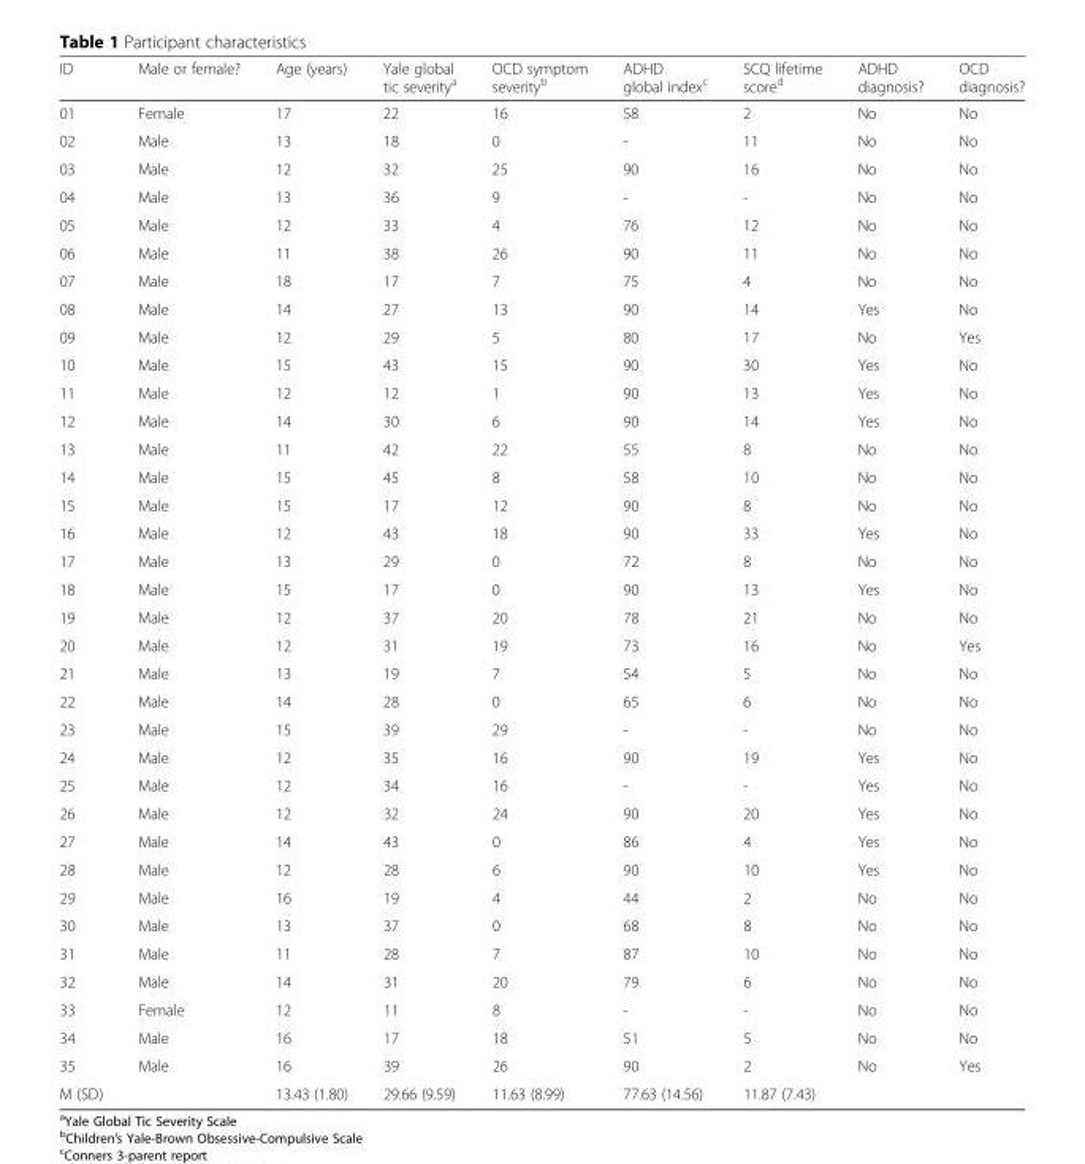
<table><thead><tr><td>ID</td><td>Male or female?</td><td>Age (years)</td><td>Yale global tic severity<sup>a</sup></td><td>OCD symptom severity<sup>b</sup></td><td>ADHD global index<sup>c</sup></td><td>SCQ lifetime score<sup>d</sup></td><td>ADHD diagnosis?</td><td>OCD diagnosis?</td></tr></thead><tbody><tr><td>01</td><td>Female</td><td>17</td><td>22</td><td>16</td><td>58</td><td>2</td><td>No</td><td>No</td></tr><tr><td>02</td><td>Male</td><td>13</td><td>18</td><td>0</td><td>-</td><td>11</td><td>No</td><td>No</td></tr><tr><td>03</td><td>Male</td><td>12</td><td>32</td><td>25</td><td>90</td><td>16</td><td>No</td><td>No</td></tr><tr><td>04</td><td>Male</td><td>13</td><td>36</td><td>9</td><td>-</td><td>-</td><td>No</td><td>No</td></tr><tr><td>05</td><td>Male</td><td>12</td><td>33</td><td>4</td><td>76</td><td>12</td><td>No</td><td>No</td></tr><tr><td>06</td><td>Male</td><td>11</td><td>38</td><td>26</td><td>90</td><td>11</td><td>No</td><td>No</td></tr><tr><td>07</td><td>Male</td><td>18</td><td>17</td><td>7</td><td>75</td><td>4</td><td>No</td><td>No</td></tr><tr><td>08</td><td>Male</td><td>14</td><td>27</td><td>13</td><td>90</td><td>14</td><td>Yes</td><td>No</td></tr><tr><td>09</td><td>Male</td><td>12</td><td>29</td><td>5</td><td>80</td><td>17</td><td>No</td><td>Yes</td></tr><tr><td>10</td><td>Male</td><td>15</td><td>43</td><td>15</td><td>90</td><td>30</td><td>Yes</td><td>No</td></tr><tr><td>11</td><td>Male</td><td>12</td><td>12</td><td>1</td><td>90</td><td>13</td><td>Yes</td><td>No</td></tr><tr><td>12</td><td>Male</td><td>14</td><td>30</td><td>6</td><td>90</td><td>14</td><td>Yes</td><td>No</td></tr><tr><td>13</td><td>Male</td><td>11</td><td>42</td><td>22</td><td>55</td><td>8</td><td>No</td><td>No</td></tr><tr><td>14</td><td>Male</td><td>15</td><td>45</td><td>8</td><td>58</td><td>10</td><td>No</td><td>No</td></tr><tr><td>15</td><td>Male</td><td>15</td><td>17</td><td>12</td><td>90</td><td>8</td><td>No</td><td>No</td></tr><tr><td>16</td><td>Male</td><td>12</td><td>43</td><td>18</td><td>90</td><td>33</td><td>Yes</td><td>No</td></tr><tr><td>17</td><td>Male</td><td>13</td><td>29</td><td>0</td><td>72</td><td>8</td><td>No</td><td>No</td></tr><tr><td>18</td><td>Male</td><td>15</td><td>17</td><td>0</td><td>90</td><td>13</td><td>Yes</td><td>No</td></tr><tr><td>19</td><td>Male</td><td>12</td><td>37</td><td>20</td><td>78</td><td>21</td><td>No</td><td>No</td></tr><tr><td>20</td><td>Male</td><td>12</td><td>31</td><td>19</td><td>73</td><td>16</td><td>No</td><td>Yes</td></tr><tr><td>21</td><td>Male</td><td>13</td><td>19</td><td>7</td><td>54</td><td>5</td><td>No</td><td>No</td></tr><tr><td>22</td><td>Male</td><td>14</td><td>28</td><td>0</td><td>65</td><td>6</td><td>No</td><td>No</td></tr><tr><td>23</td><td>Male</td><td>15</td><td>39</td><td>29</td><td>-</td><td>-</td><td>No</td><td>No</td></tr><tr><td>24</td><td>Male</td><td>12</td><td>35</td><td>16</td><td>90</td><td>19</td><td>Yes</td><td>No</td></tr><tr><td>25</td><td>Male</td><td>12</td><td>34</td><td>16</td><td>-</td><td>-</td><td>Yes</td><td>No</td></tr><tr><td>26</td><td>Male</td><td>12</td><td>32</td><td>24</td><td>90</td><td>20</td><td>Yes</td><td>No</td></tr><tr><td>27</td><td>Male</td><td>14</td><td>43</td><td>0</td><td>86</td><td>4</td><td>Yes</td><td>No</td></tr><tr><td>28</td><td>Male</td><td>12</td><td>28</td><td>6</td><td>90</td><td>10</td><td>Yes</td><td>No</td></tr><tr><td>29</td><td>Male</td><td>16</td><td>19</td><td>4</td><td>44</td><td>2</td><td>No</td><td>No</td></tr><tr><td>30</td><td>Male</td><td>13</td><td>37</td><td>0</td><td>68</td><td>8</td><td>No</td><td>No</td></tr><tr><td>31</td><td>Male</td><td>11</td><td>28</td><td>7</td><td>87</td><td>10</td><td>No</td><td>No</td></tr><tr><td>32</td><td>Male</td><td>14</td><td>31</td><td>20</td><td>79</td><td>6</td><td>No</td><td>No</td></tr><tr><td>33</td><td>Female</td><td>12</td><td>11</td><td>8</td><td>-</td><td>-</td><td>No</td><td>No</td></tr><tr><td>34</td><td>Male</td><td>16</td><td>17</td><td>18</td><td>51</td><td>5</td><td>No</td><td>No</td></tr><tr><td>35</td><td>Male</td><td>16</td><td>39</td><td>26</td><td>90</td><td>2</td><td>No</td><td>Yes</td></tr><tr><td>M (SD)</td><td></td><td>13.43 (1.80)</td><td>29.66 (9.59)</td><td>11.63 (8.99)</td><td>77.63 (14.56)</td><td>11.87 (7.43)</td><td></td><td></td></tr></tbody></table>